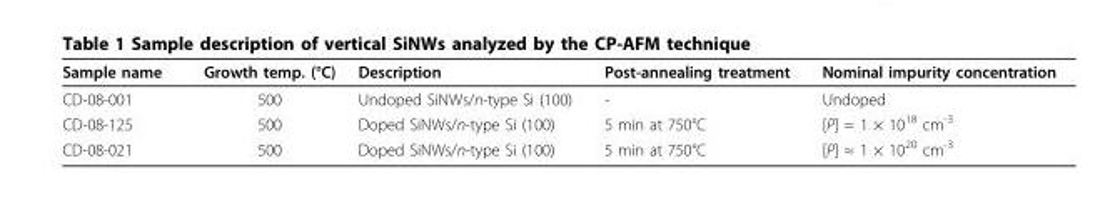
<table><thead><tr><td>Sample name</td><td>Growth temp. (°C)</td><td>Description</td><td>Post-annealing treatment</td><td>Nominal impurity concentration</td></tr></thead><tbody><tr><td>CD-08-001</td><td>500</td><td>Undoped SiNWs/n-type Si (100)</td><td>-</td><td>Undoped</td></tr><tr><td>CD-08-125</td><td>500</td><td>Doped SiNWs/n-type Si (100)</td><td>5 min at 750°C</td><td>[P] ≈ 1 × 10<sup>18</sup> cm<sup>-3</sup></td></tr><tr><td>CD-08-021</td><td>500</td><td>Doped SiNWs/n-type Si (100)</td><td>5 min at 750°C</td><td>[P] ≈ 1 × 10<sup>20</sup> cm<sup>-3</sup></td></tr></tbody></table>